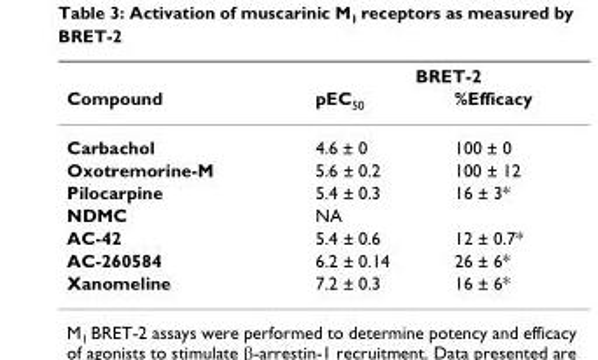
<table><thead><tr><td rowspan="2">Compound</td><td colspan="2">BRET-2</td></tr><tr><td>pEC<sub>50</sub></td><td>%Efficacy</td></tr></thead><tbody><tr><td>Carbachol</td><td>4.6 ± 0</td><td>100 ± 0</td></tr><tr><td>Oxotremorine-M</td><td>5.6 ± 0.2</td><td>100 ± 12</td></tr><tr><td>Pilocarpine</td><td>5.4 ± 0.3</td><td>16 ± 3*</td></tr><tr><td>NDMC</td><td>NA</td><td></td></tr><tr><td>AC-42</td><td>5.4 ± 0.6</td><td>12 ± 0.7*</td></tr><tr><td>AC-260584</td><td>6.2 ± 0.14</td><td>26 ± 6*</td></tr><tr><td>Xanomeline</td><td>7.2 ± 0.3</td><td>16 ± 6*</td></tr></tbody></table>